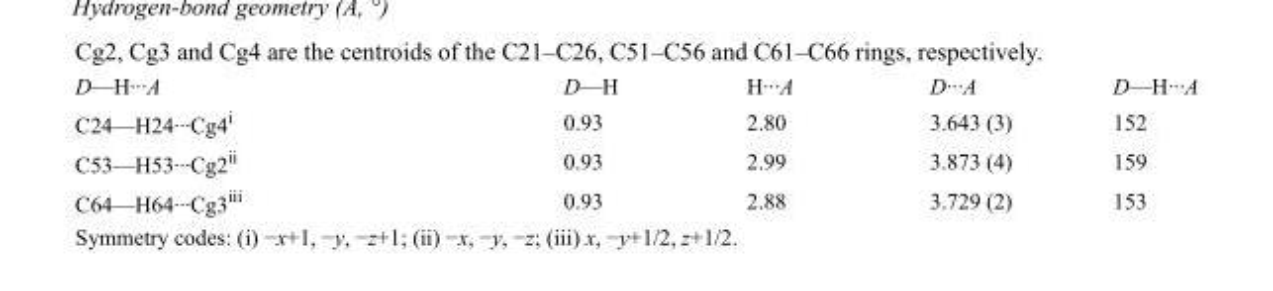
<table><tbody><tr><td>D—H···A</td><td>D—H</td><td>H···A</td><td>D···A</td><td>D—H···A</td></tr><tr><td>C24—H24···Cg4<sup>i</sup></td><td>0.93</td><td>2.80</td><td>3.643 (3)</td><td>152</td></tr><tr><td>C53—H53···Cg2<sup>ii</sup></td><td>0.93</td><td>2.99</td><td>3.873 (4)</td><td>159</td></tr><tr><td>C64—H64···Cg3<sup>iii</sup></td><td>0.93</td><td>2.88</td><td>3.729 (2)</td><td>153</td></tr></tbody></table>